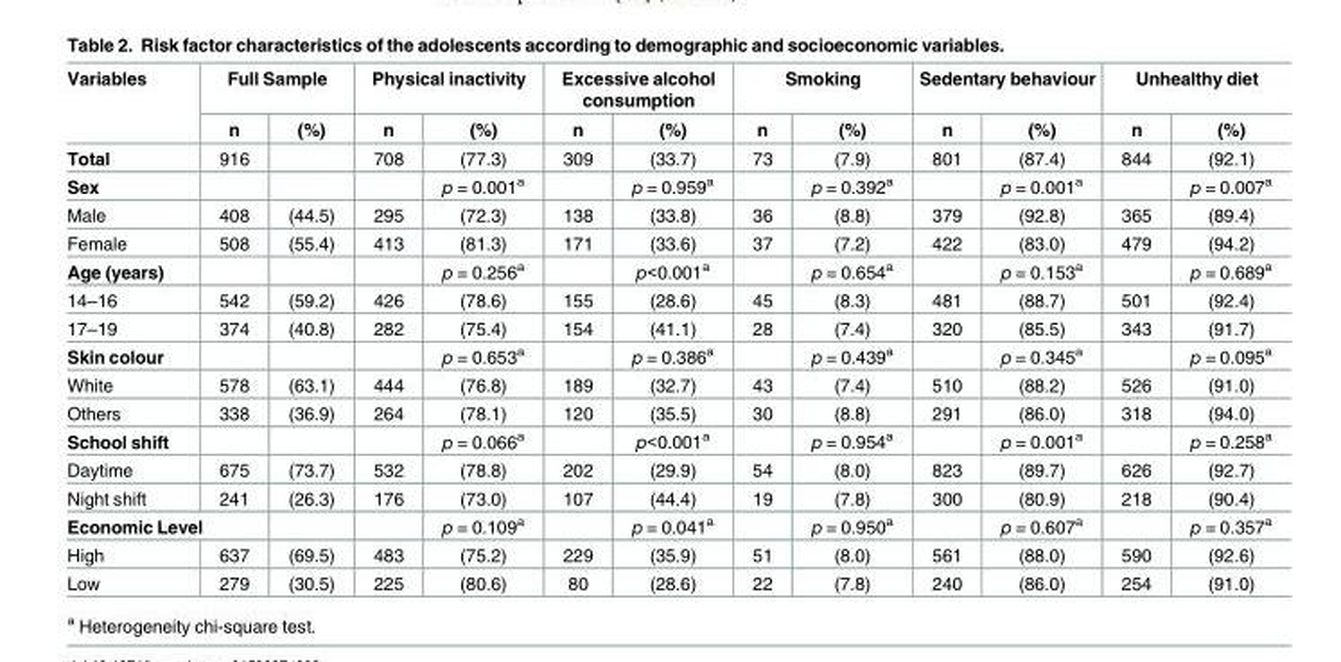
<table><thead><tr><td rowspan="2">Variables</td><td colspan="2">Full Sample</td><td colspan="2">Physical inactivity</td><td colspan="2">Excessive alcohol consumption</td><td colspan="2">Smoking</td><td colspan="2">Sedentary behaviour</td><td colspan="2">Unhealthy diet</td></tr><tr><td>n</td><td>(%)</td><td>n</td><td>(%)</td><td>n</td><td>(%)</td><td>n</td><td>(%)</td><td>n</td><td>(%)</td><td>n</td><td>(%)</td></tr></thead><tbody><tr><td>Total</td><td>916</td><td></td><td>708</td><td>(77.3)</td><td>309</td><td>(33.7)</td><td>73</td><td>(7.9)</td><td>801</td><td>(87.4)</td><td>844</td><td>(92.1)</td></tr><tr><td>Sex</td><td></td><td></td><td></td><td>p = 0.001<sup>a</sup></td><td></td><td>p = 0.959<sup>a</sup></td><td></td><td>p = 0.392<sup>a</sup></td><td></td><td>p = 0.001<sup>a</sup></td><td></td><td>p = 0.007<sup>a</sup></td></tr><tr><td>Male</td><td>408</td><td>(44.5)</td><td>295</td><td>(72.3)</td><td>138</td><td>(33.8)</td><td>36</td><td>(8.8)</td><td>379</td><td>(92.8)</td><td>365</td><td>(89.4)</td></tr><tr><td>Female</td><td>508</td><td>(55.4)</td><td>413</td><td>(81.3)</td><td>171</td><td>(33.6)</td><td>37</td><td>(7.2)</td><td>422</td><td>(83.0)</td><td>479</td><td>(94.2)</td></tr><tr><td>Age (years)</td><td></td><td></td><td></td><td>p = 0.256<sup>a</sup></td><td></td><td>p&lt;0.001<sup>a</sup></td><td></td><td>p = 0.654<sup>a</sup></td><td></td><td>p = 0.153<sup>a</sup></td><td></td><td>p = 0.689<sup>a</sup></td></tr><tr><td>14–16</td><td>542</td><td>(59.2)</td><td>426</td><td>(78.6)</td><td>155</td><td>(28.6)</td><td>45</td><td>(8.3)</td><td>481</td><td>(88.7)</td><td>501</td><td>(92.4)</td></tr><tr><td>17–19</td><td>374</td><td>(40.8)</td><td>282</td><td>(75.4)</td><td>154</td><td>(41.1)</td><td>28</td><td>(7.4)</td><td>320</td><td>(85.5)</td><td>343</td><td>(91.7)</td></tr><tr><td>Skin colour</td><td></td><td></td><td></td><td>p = 0.653<sup>a</sup></td><td></td><td>p = 0.386<sup>a</sup></td><td></td><td>p = 0.439<sup>a</sup></td><td></td><td>p = 0.345<sup>a</sup></td><td></td><td>p = 0.095<sup>a</sup></td></tr><tr><td>White</td><td>578</td><td>(63.1)</td><td>444</td><td>(76.8)</td><td>189</td><td>(32.7)</td><td>43</td><td>(7.4)</td><td>510</td><td>(88.2)</td><td>526</td><td>(91.0)</td></tr><tr><td>Others</td><td>338</td><td>(36.9)</td><td>264</td><td>(78.1)</td><td>120</td><td>(35.5)</td><td>30</td><td>(8.8)</td><td>291</td><td>(86.0)</td><td>318</td><td>(94.0)</td></tr><tr><td>School shift</td><td></td><td></td><td></td><td>p = 0.066<sup>a</sup></td><td></td><td>p&lt;0.001<sup>a</sup></td><td></td><td>p = 0.954<sup>a</sup></td><td></td><td>p = 0.001<sup>a</sup></td><td></td><td>p = 0.258<sup>a</sup></td></tr><tr><td>Daytime</td><td>675</td><td>(73.7)</td><td>532</td><td>(78.8)</td><td>202</td><td>(29.9)</td><td>54</td><td>(8.0)</td><td>823</td><td>(89.7)</td><td>626</td><td>(92.7)</td></tr><tr><td>Night shift</td><td>241</td><td>(26.3)</td><td>176</td><td>(73.0)</td><td>107</td><td>(44.4)</td><td>19</td><td>(7.8)</td><td>300</td><td>(80.9)</td><td>218</td><td>(90.4)</td></tr><tr><td colspan="2">Economic Level</td><td></td><td></td><td>p = 0.109<sup>a</sup></td><td></td><td>p = 0.041<sup>a</sup></td><td></td><td>p = 0.950<sup>a</sup></td><td></td><td>p = 0.607<sup>a</sup></td><td></td><td>p = 0.357<sup>a</sup></td></tr><tr><td>High</td><td>637</td><td>(69.5)</td><td>483</td><td>(75.2)</td><td>229</td><td>(35.9)</td><td>51</td><td>(8.0)</td><td>561</td><td>(88.0)</td><td>590</td><td>(92.6)</td></tr><tr><td>Low</td><td>279</td><td>(30.5)</td><td>225</td><td>(80.6)</td><td>80</td><td>(28.6)</td><td>22</td><td>(7.8)</td><td>240</td><td>(86.0)</td><td>254</td><td>(91.0)</td></tr></tbody></table>